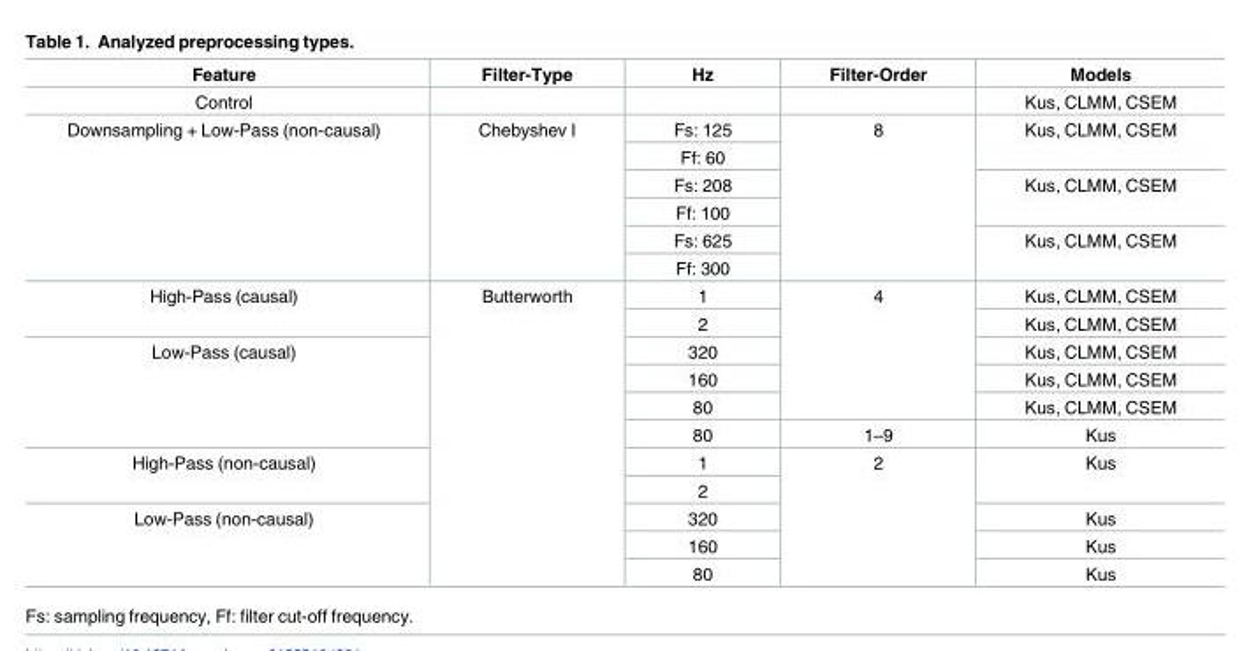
<table><thead><tr><td>Feature</td><td>Filter-Type</td><td>Hz</td><td>Filter-Order</td><td>Models</td></tr></thead><tbody><tr><td>Control</td><td></td><td></td><td></td><td>Kus, CLMM, CSEM</td></tr><tr><td rowspan="6">Downsampling + Low-Pass (non-causal)</td><td rowspan="6">Chebyshev I</td><td>Fs: 125</td><td rowspan="6">8</td><td rowspan="2">Kus, CLMM, CSEM</td></tr><tr><td>Ff: 60</td></tr><tr><td>Fs: 208</td><td rowspan="2">Kus, CLMM, CSEM</td></tr><tr><td>Ff: 100</td></tr><tr><td>Fs: 625</td><td rowspan="2">Kus, CLMM, CSEM</td></tr><tr><td>Ff: 300</td></tr><tr><td rowspan="2">High-Pass (causal)</td><td rowspan="11">Butterworth</td><td>1</td><td rowspan="5">4</td><td>Kus, CLMM, CSEM</td></tr><tr><td>2</td><td>Kus, CLMM, CSEM</td></tr><tr><td rowspan="4">Low-Pass (causal)</td><td>320</td><td>Kus, CLMM, CSEM</td></tr><tr><td>160</td><td>Kus, CLMM, CSEM</td></tr><tr><td>80</td><td>Kus, CLMM, CSEM</td></tr><tr><td>80</td><td>1–9</td><td>Kus</td></tr><tr><td rowspan="2">High-Pass (non-causal)</td><td>1</td><td rowspan="5">2</td><td rowspan="2">Kus</td></tr><tr><td>2</td></tr><tr><td rowspan="3">Low-Pass (non-causal)</td><td>320</td><td>Kus</td></tr><tr><td>160</td><td>Kus</td></tr><tr><td>80</td><td>Kus</td></tr></tbody></table>